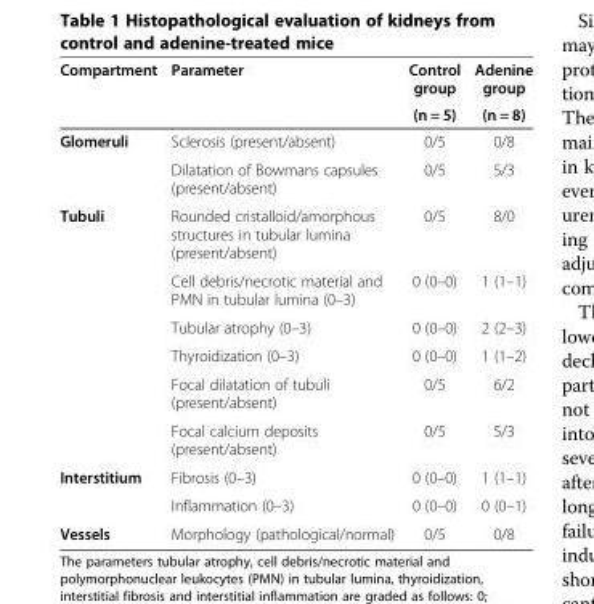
<table><thead><tr><td rowspan="2">Compartment</td><td rowspan="2">Parameter</td><td rowspan="2">Control group (n = 5)</td><td rowspan="2">Adenine group (n = 8)</td></tr><tr></tr></thead><tbody><tr><td rowspan="2">Glomeruli</td><td>Sclerosis (present/absent)</td><td>0/5</td><td>0/8</td></tr><tr><td>Dilatation of Bowmans capsules (present/absent)</td><td>0/5</td><td>5/3</td></tr><tr><td rowspan="6">Tubuli</td><td>Rounded cristalloid/amorphous structures in tubular lumina (present/absent)</td><td>0/5</td><td>8/0</td></tr><tr><td>Cell debris/necrotic material and PMN in tubular lumina (0–3)</td><td>0 (0–0)</td><td>1 (1–1)</td></tr><tr><td>Tubular atrophy (0–3)</td><td>0 (0–0)</td><td>2 (2–3)</td></tr><tr><td>Thyroidization (0–3)</td><td>0 (0–0)</td><td>1 (1–2)</td></tr><tr><td>Focal dilatation of tubuli (present/absent)</td><td>0/5</td><td>6/2</td></tr><tr><td>Focal calcium deposits (present/absent)</td><td>0/5</td><td>5/3</td></tr><tr><td rowspan="2">Interstitium</td><td>Fibrosis (0–3)</td><td>0 (0–0)</td><td>1 (1–1)</td></tr><tr><td>Inflammation (0–3)</td><td>0 (0–0)</td><td>0 (0–1)</td></tr><tr><td>Vessels</td><td>Morphology (pathological/normal)</td><td>0/5</td><td>0/8</td></tr></tbody></table>